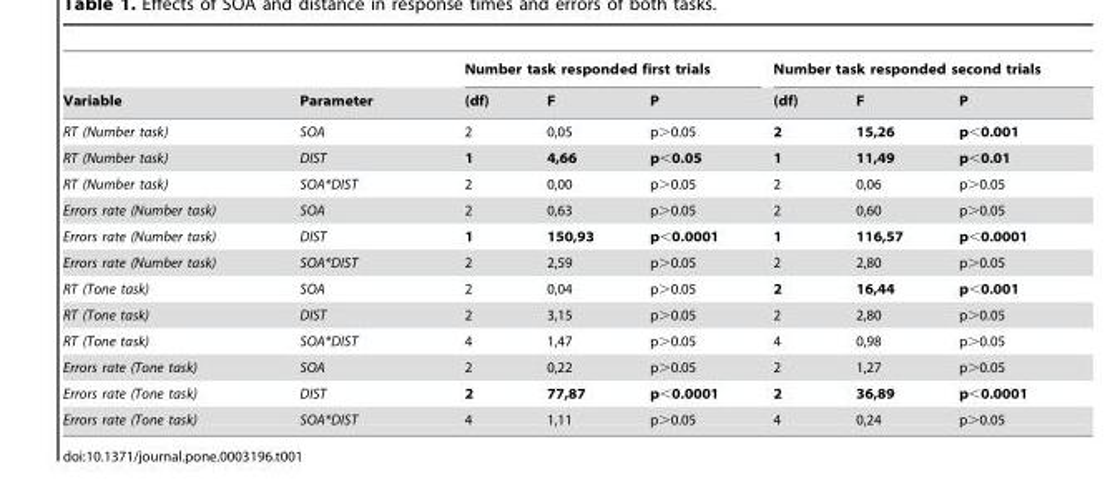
<table><thead><tr><td rowspan="2">Variable</td><td rowspan="2">Parameter</td><td colspan="3">Number task responded first trials</td><td colspan="3">Number task responded second trials</td></tr><tr><td>(df)</td><td>F</td><td>P</td><td>(df)</td><td>F</td><td>P</td></tr></thead><tbody><tr><td>RT (Number task)</td><td>SOA</td><td>2</td><td>0,05</td><td>p&gt;0.05</td><td>2</td><td>15,26</td><td>p&lt;0.001</td></tr><tr><td>RT (Number task)</td><td>DIST</td><td>1</td><td>4,66</td><td>p&lt;0.05</td><td>1</td><td>11,49</td><td>p&lt;0.01</td></tr><tr><td>RT (Number task)</td><td>SOA*DIST</td><td>2</td><td>0,00</td><td>p&gt;0.05</td><td>2</td><td>0,06</td><td>p&gt;0.05</td></tr><tr><td>Errors rate (Number task)</td><td>SOA</td><td>2</td><td>0,63</td><td>p&gt;0.05</td><td>2</td><td>0,60</td><td>p&gt;0.05</td></tr><tr><td>Errors rate (Number task)</td><td>DIST</td><td>1</td><td>150,93</td><td>p&lt;0.0001</td><td>1</td><td>116,57</td><td>p&lt;0.0001</td></tr><tr><td>Errors rate (Number task)</td><td>SOA*DIST</td><td>2</td><td>2,59</td><td>p&gt;0.05</td><td>2</td><td>2,80</td><td>p&gt;0.05</td></tr><tr><td>RT (Tone task)</td><td>SOA</td><td>2</td><td>0,04</td><td>p&gt;0.05</td><td>2</td><td>16,44</td><td>p&lt;0.001</td></tr><tr><td>RT (Tone task)</td><td>DIST</td><td>2</td><td>3,15</td><td>p&gt;0.05</td><td>2</td><td>2,80</td><td>p&gt;0.05</td></tr><tr><td>RT (Tone task)</td><td>SOA*DIST</td><td>4</td><td>1,47</td><td>p&gt;0.05</td><td>4</td><td>0,98</td><td>p&gt;0.05</td></tr><tr><td>Errors rate (Tone task)</td><td>SOA</td><td>2</td><td>0,22</td><td>p&gt;0.05</td><td>2</td><td>1,27</td><td>p&gt;0.05</td></tr><tr><td>Errors rate (Tone task)</td><td>DIST</td><td>2</td><td>77,87</td><td>p&lt;0.0001</td><td>2</td><td>36,89</td><td>p&lt;0.0001</td></tr><tr><td>Errors rate (Tone task)</td><td>SOA*DIST</td><td>4</td><td>1,11</td><td>p&gt;0.05</td><td>4</td><td>0,24</td><td>p&gt;0.05</td></tr></tbody></table>